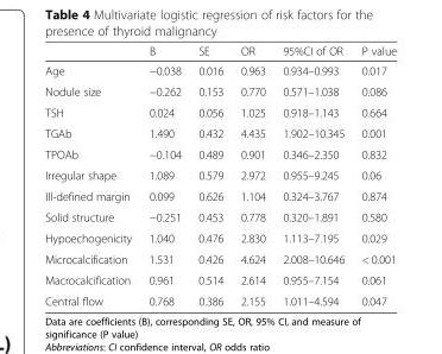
<table><thead><tr><td></td><td>B</td><td>SE</td><td>OR</td><td>95%CI of OR</td><td>P value</td></tr></thead><tbody><tr><td>Age</td><td>−0.038</td><td>0.016</td><td>0.963</td><td>0.934–0.993</td><td>0.017</td></tr><tr><td>Nodule size</td><td>−0.262</td><td>0.153</td><td>0.770</td><td>0.571–1.038</td><td>0.086</td></tr><tr><td>TSH</td><td>0.024</td><td>0.056</td><td>1.025</td><td>0.918–1.143</td><td>0.664</td></tr><tr><td>TGAb</td><td>1.490</td><td>0.432</td><td>4.435</td><td>1.902–10.345</td><td>0.001</td></tr><tr><td>TPOAb</td><td>−0.104</td><td>0.489</td><td>0.901</td><td>0.346–2.350</td><td>0.832</td></tr><tr><td>Irregular shape</td><td>1.089</td><td>0.579</td><td>2.972</td><td>0.955–9.245</td><td>0.06</td></tr><tr><td>Ill-defined margin</td><td>0.099</td><td>0.626</td><td>1.104</td><td>0.324–3.767</td><td>0.874</td></tr><tr><td>Solid structure</td><td>−0.251</td><td>0.453</td><td>0.778</td><td>0.320–1.891</td><td>0.580</td></tr><tr><td>Hypoechogenicity</td><td>1.040</td><td>0.476</td><td>2.830</td><td>1.113–7.195</td><td>0.029</td></tr><tr><td>Microcalcification</td><td>1.531</td><td>0.426</td><td>4.624</td><td>2.008–10.646</td><td>&lt; 0.001</td></tr><tr><td>Macrocalcification</td><td>0.961</td><td>0.514</td><td>2.614</td><td>0.955–7.154</td><td>0.061</td></tr><tr><td>Central flow</td><td>0.768</td><td>0.386</td><td>2.155</td><td>1.011–4.594</td><td>0.047</td></tr></tbody></table>